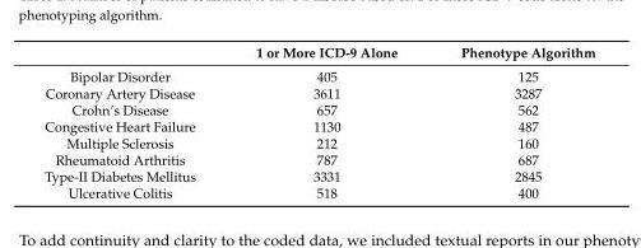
<table><thead><tr><td></td><td>1 or More ICD-9 Alone</td><td>Phenotype Algorithm</td></tr></thead><tbody><tr><td>Bipolar Disorder</td><td>405</td><td>125</td></tr><tr><td>Coronary Artery Disease</td><td>3611</td><td>3287</td></tr><tr><td>Crohn’s Disease</td><td>657</td><td>562</td></tr><tr><td>Congestive Heart Failure</td><td>1130</td><td>487</td></tr><tr><td>Multiple Sclerosis</td><td>212</td><td>160</td></tr><tr><td>Rheumatoid Arthritis</td><td>787</td><td>687</td></tr><tr><td>Type-II Diabetes Mellitus</td><td>3331</td><td>2845</td></tr><tr><td>Ulcerative Colitis</td><td>518</td><td>400</td></tr></tbody></table>